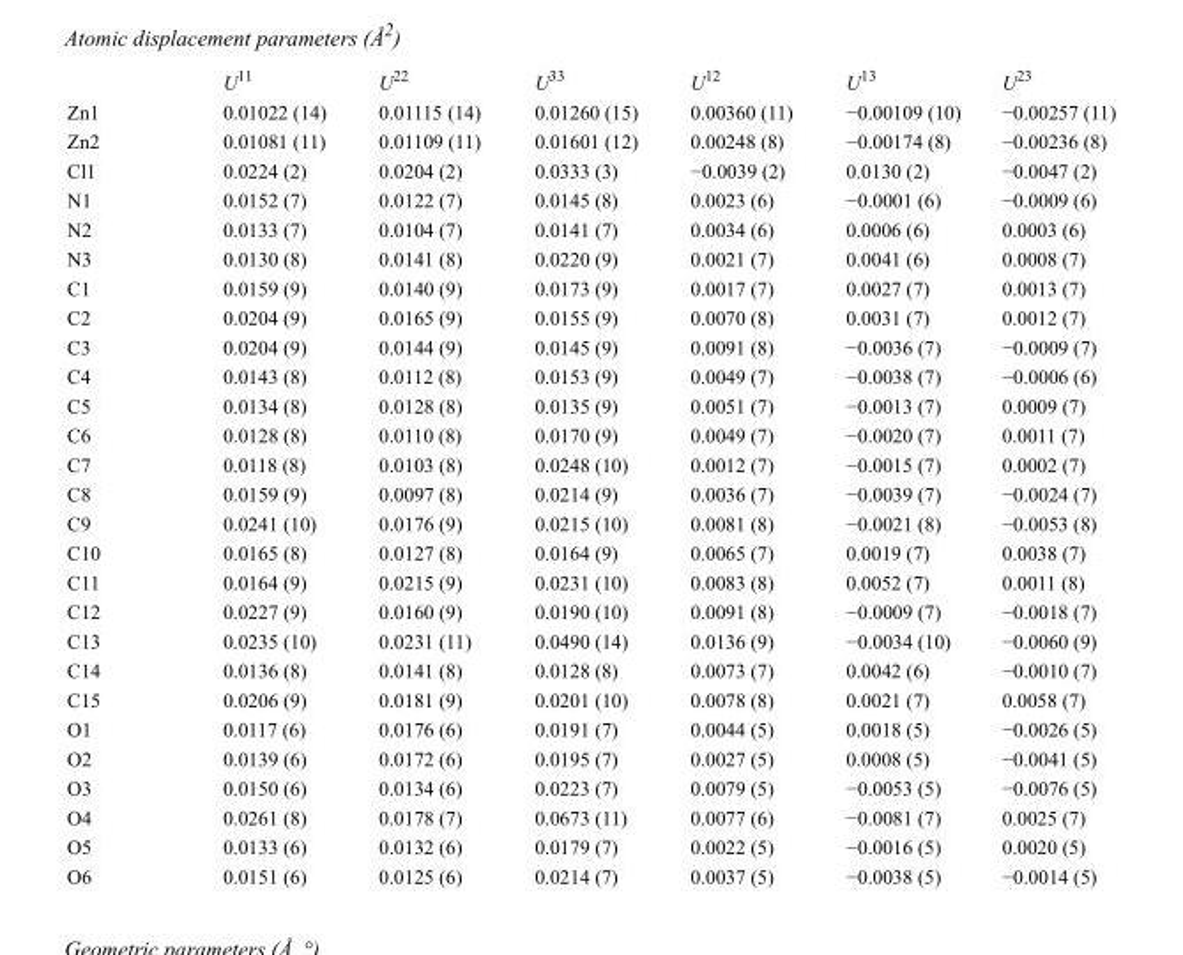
<table><thead><tr><td></td><td>U<sup>11</sup></td><td>U<sup>22</sup></td><td>U<sup>33</sup></td><td>U<sup>12</sup></td><td>U<sup>13</sup></td><td>U<sup>23</sup></td></tr></thead><tbody><tr><td>Zn1</td><td>0.01022 (14)</td><td>0.01115 (14)</td><td>0.01260 (15)</td><td>0.00360 (11)</td><td>−0.00109 (10)</td><td>−0.00257 (11)</td></tr><tr><td>Zn2</td><td>0.01081 (11)</td><td>0.01109 (11)</td><td>0.01601 (12)</td><td>0.00248 (8)</td><td>−0.00174 (8)</td><td>−0.00236 (8)</td></tr><tr><td>Cl1</td><td>0.0224 (2)</td><td>0.0204 (2)</td><td>0.0333 (3)</td><td>−0.0039 (2)</td><td>0.0130 (2)</td><td>−0.0047 (2)</td></tr><tr><td>N1</td><td>0.0152 (7)</td><td>0.0122 (7)</td><td>0.0145 (8)</td><td>0.0023 (6)</td><td>−0.0001 (6)</td><td>−0.0009 (6)</td></tr><tr><td>N2</td><td>0.0133 (7)</td><td>0.0104 (7)</td><td>0.0141 (7)</td><td>0.0034 (6)</td><td>0.0006 (6)</td><td>0.0003 (6)</td></tr><tr><td>N3</td><td>0.0130 (8)</td><td>0.0141 (8)</td><td>0.0220 (9)</td><td>0.0021 (7)</td><td>0.0041 (6)</td><td>0.0008 (7)</td></tr><tr><td>C1</td><td>0.0159 (9)</td><td>0.0140 (9)</td><td>0.0173 (9)</td><td>0.0017 (7)</td><td>0.0027 (7)</td><td>0.0013 (7)</td></tr><tr><td>C2</td><td>0.0204 (9)</td><td>0.0165 (9)</td><td>0.0155 (9)</td><td>0.0070 (8)</td><td>0.0031 (7)</td><td>0.0012 (7)</td></tr><tr><td>C3</td><td>0.0204 (9)</td><td>0.0144 (9)</td><td>0.0145 (9)</td><td>0.0091 (8)</td><td>−0.0036 (7)</td><td>−0.0009 (7)</td></tr><tr><td>C4</td><td>0.0143 (8)</td><td>0.0112 (8)</td><td>0.0153 (9)</td><td>0.0049 (7)</td><td>−0.0038 (7)</td><td>−0.0006 (6)</td></tr><tr><td>C5</td><td>0.0134 (8)</td><td>0.0128 (8)</td><td>0.0135 (9)</td><td>0.0051 (7)</td><td>−0.0013 (7)</td><td>0.0009 (7)</td></tr><tr><td>C6</td><td>0.0128 (8)</td><td>0.0110 (8)</td><td>0.0170 (9)</td><td>0.0049 (7)</td><td>−0.0020 (7)</td><td>0.0011 (7)</td></tr><tr><td>C7</td><td>0.0118 (8)</td><td>0.0103 (8)</td><td>0.0248 (10)</td><td>0.0012 (7)</td><td>−0.0015 (7)</td><td>0.0002 (7)</td></tr><tr><td>C8</td><td>0.0159 (9)</td><td>0.0097 (8)</td><td>0.0214 (9)</td><td>0.0036 (7)</td><td>−0.0039 (7)</td><td>−0.0024 (7)</td></tr><tr><td>C9</td><td>0.0241 (10)</td><td>0.0176 (9)</td><td>0.0215 (10)</td><td>0.0081 (8)</td><td>−0.0021 (8)</td><td>−0.0053 (8)</td></tr><tr><td>C10</td><td>0.0165 (8)</td><td>0.0127 (8)</td><td>0.0164 (9)</td><td>0.0065 (7)</td><td>0.0019 (7)</td><td>0.0038 (7)</td></tr><tr><td>C11</td><td>0.0164 (9)</td><td>0.0215 (9)</td><td>0.0231 (10)</td><td>0.0083 (8)</td><td>0.0052 (7)</td><td>0.0011 (8)</td></tr><tr><td>C12</td><td>0.0227 (9)</td><td>0.0160 (9)</td><td>0.0190 (10)</td><td>0.0091 (8)</td><td>−0.0009 (7)</td><td>−0.0018 (7)</td></tr><tr><td>C13</td><td>0.0235 (10)</td><td>0.0231 (11)</td><td>0.0490 (14)</td><td>0.0136 (9)</td><td>−0.0034 (10)</td><td>−0.0060 (9)</td></tr><tr><td>C14</td><td>0.0136 (8)</td><td>0.0141 (8)</td><td>0.0128 (8)</td><td>0.0073 (7)</td><td>0.0042 (6)</td><td>−0.0010 (7)</td></tr><tr><td>C15</td><td>0.0206 (9)</td><td>0.0181 (9)</td><td>0.0201 (10)</td><td>0.0078 (8)</td><td>0.0021 (7)</td><td>0.0058 (7)</td></tr><tr><td>O1</td><td>0.0117 (6)</td><td>0.0176 (6)</td><td>0.0191 (7)</td><td>0.0044 (5)</td><td>0.0018 (5)</td><td>−0.0026 (5)</td></tr><tr><td>O2</td><td>0.0139 (6)</td><td>0.0172 (6)</td><td>0.0195 (7)</td><td>0.0027 (5)</td><td>0.0008 (5)</td><td>−0.0041 (5)</td></tr><tr><td>O3</td><td>0.0150 (6)</td><td>0.0134 (6)</td><td>0.0223 (7)</td><td>0.0079 (5)</td><td>−0.0053 (5)</td><td>−0.0076 (5)</td></tr><tr><td>O4</td><td>0.0261 (8)</td><td>0.0178 (7)</td><td>0.0673 (11)</td><td>0.0077 (6)</td><td>−0.0081 (7)</td><td>0.0025 (7)</td></tr><tr><td>O5</td><td>0.0133 (6)</td><td>0.0132 (6)</td><td>0.0179 (7)</td><td>0.0022 (5)</td><td>−0.0016 (5)</td><td>0.0020 (5)</td></tr><tr><td>O6</td><td>0.0151 (6)</td><td>0.0125 (6)</td><td>0.0214 (7)</td><td>0.0037 (5)</td><td>−0.0038 (5)</td><td>−0.0014 (5)</td></tr></tbody></table>